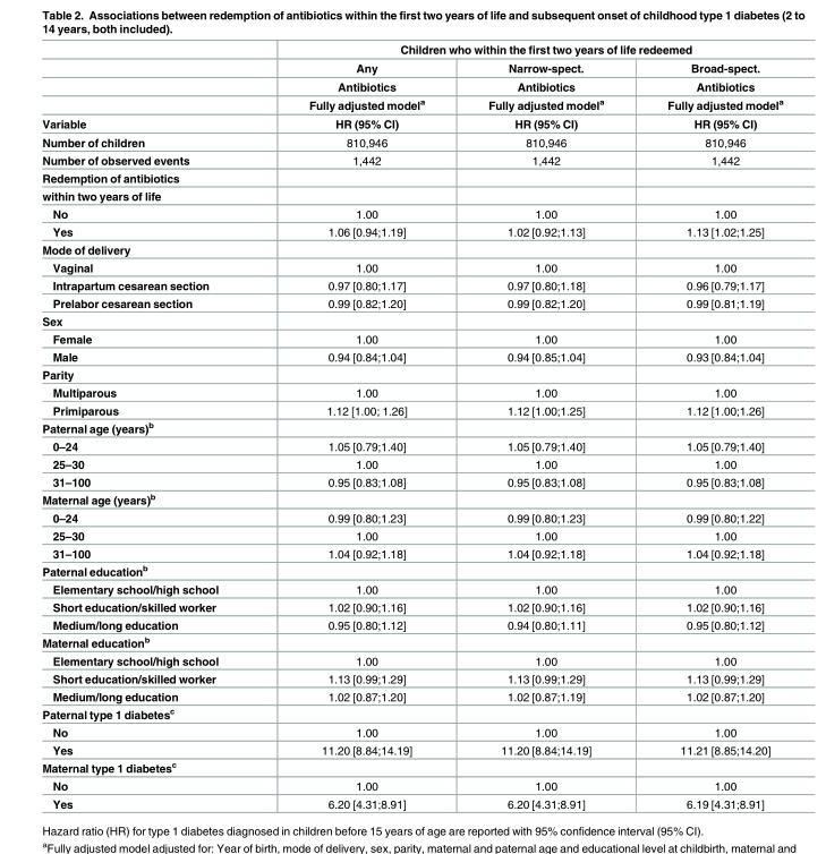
<table><thead><tr><td rowspan="5">Variable</td><td colspan="3">Children who within the first two years of life redeemed</td></tr><tr><td rowspan="4">Any Antibiotics Fully adjusted model<sup>a</sup> HR (95% CI)</td><td rowspan="4">Narrow-spect. Antibiotics Fully adjusted model<sup>a</sup> HR (95% CI)</td><td rowspan="4">Broad-spect. Antibiotics Fully adjusted model<sup>a</sup> HR (95% CI)</td></tr><tr></tr><tr></tr><tr></tr></thead><tbody><tr><td>Number of children</td><td>810,946</td><td>810,946</td><td>810,946</td></tr><tr><td>Number of observed events</td><td>1,442</td><td>1,442</td><td>1,442</td></tr><tr><td colspan="4">Redemption of antibiotics</td></tr><tr><td colspan="4">within two years of life</td></tr><tr><td>No</td><td>1.00</td><td>1.00</td><td>1.00</td></tr><tr><td>Yes</td><td>1.06 [0.94;1.19]</td><td>1.02 [0.92;1.13]</td><td>1.13 [1.02;1.25]</td></tr><tr><td colspan="4">Mode of delivery</td></tr><tr><td>Vaginal</td><td>1.00</td><td>1.00</td><td>1.00</td></tr><tr><td>Intrapartum cesarean section</td><td>0.97 [0.80;1.17]</td><td>0.97 [0.80;1.18]</td><td>0.96 [0.79;1.17]</td></tr><tr><td>Prelabor cesarean section</td><td>0.99 [0.82;1.20]</td><td>0.99 [0.82;1.20]</td><td>0.99 [0.81;1.19]</td></tr><tr><td colspan="4">Sex</td></tr><tr><td>Female</td><td>1.00</td><td>1.00</td><td>1.00</td></tr><tr><td>Male</td><td>0.94 [0.84;1.04]</td><td>0.94 [0.85;1.04]</td><td>0.93 [0.84;1.04]</td></tr><tr><td colspan="4">Parity</td></tr><tr><td>Multiparous</td><td>1.00</td><td>1.00</td><td>1.00</td></tr><tr><td>Primiparous</td><td>1.12 [1.00; 1.26]</td><td>1.12 [1.00;1.25]</td><td>1.12 [1.00;1.26]</td></tr><tr><td colspan="4">Paternal age (years)<sup>b</sup></td></tr><tr><td>0–24</td><td>1.05 [0.79;1.40]</td><td>1.05 [0.79;1.40]</td><td>1.05 [0.79;1.40]</td></tr><tr><td>25–30</td><td>1.00</td><td>1.00</td><td>1.00</td></tr><tr><td>31–100</td><td>0.95 [0.83;1.08]</td><td>0.95 [0.83;1.08]</td><td>0.95 [0.83;1.08]</td></tr><tr><td colspan="4">Maternal age (years)<sup>b</sup></td></tr><tr><td>0–24</td><td>0.99 [0.80;1.23]</td><td>0.99 [0.80;1.23]</td><td>0.99 [0.80;1.22]</td></tr><tr><td>25–30</td><td>1.00</td><td>1.00</td><td>1.00</td></tr><tr><td>31–100</td><td>1.04 [0.92;1.18]</td><td>1.04 [0.92;1.18]</td><td>1.04 [0.92;1.18]</td></tr><tr><td colspan="4">Paternal education<sup>b</sup></td></tr><tr><td>Elementary school/high school</td><td>1.00</td><td>1.00</td><td>1.00</td></tr><tr><td>Short education/skilled worker</td><td>1.02 [0.90;1.16]</td><td>1.02 [0.90;1.16]</td><td>1.02 [0.90;1.16]</td></tr><tr><td>Medium/long education</td><td>0.95 [0.80;1.12]</td><td>0.94 [0.80;1.11]</td><td>0.95 [0.80;1.12]</td></tr><tr><td colspan="4">Maternal education<sup>b</sup></td></tr><tr><td>Elementary school/high school</td><td>1.00</td><td>1.00</td><td>1.00</td></tr><tr><td>Short education/skilled worker</td><td>1.13 [0.99;1.29]</td><td>1.13 [0.99;1.29]</td><td>1.13 [0.99;1.29]</td></tr><tr><td>Medium/long education</td><td>1.02 [0.87;1.20]</td><td>1.02 [0.87;1.19]</td><td>1.02 [0.87;1.20]</td></tr><tr><td colspan="4">Paternal type 1 diabetes<sup>c</sup></td></tr><tr><td>No</td><td>1.00</td><td>1.00</td><td>1.00</td></tr><tr><td>Yes</td><td>11.20 [8.84;14.19]</td><td>11.20 [8.84;14.19]</td><td>11.21 [8.85;14.20]</td></tr><tr><td colspan="4">Maternal type 1 diabetes<sup>c</sup></td></tr><tr><td>No</td><td>1.00</td><td>1.00</td><td>1.00</td></tr><tr><td>Yes</td><td>6.20 [4.31;8.91]</td><td>6.20 [4.31;8.91]</td><td>6.19 [4.31;8.91]</td></tr></tbody></table>